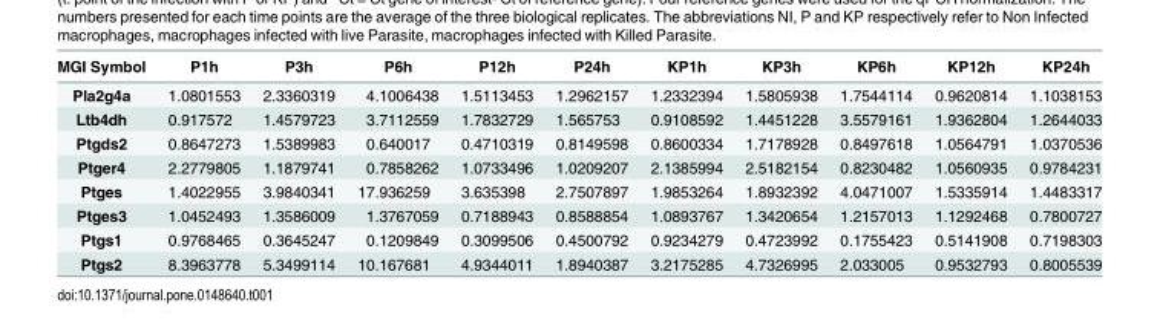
<table><thead><tr><td>MGI Symbol</td><td>P1h</td><td>P3h</td><td>P6h</td><td>P12h</td><td>P24h</td><td>KP1h</td><td>KP3h</td><td>KP6h</td><td>KP12h</td><td>KP24h</td></tr></thead><tbody><tr><td>Pla2g4a</td><td>1.0801553</td><td>2.3360319</td><td>4.1006438</td><td>1.5113453</td><td>1.2962157</td><td>1.2332394</td><td>1.5805938</td><td>1.7544114</td><td>0.9620814</td><td>1.1038153</td></tr><tr><td>Ltb4dh</td><td>0.917572</td><td>1.4579723</td><td>3.7112559</td><td>1.7832729</td><td>1.565753</td><td>0.9108592</td><td>1.4451228</td><td>3.5579161</td><td>1.9362804</td><td>1.2644033</td></tr><tr><td>Ptgds2</td><td>0.8647273</td><td>1.5389983</td><td>0.640017</td><td>0.4710319</td><td>0.8149598</td><td>0.8600334</td><td>1.7178928</td><td>0.8497618</td><td>1.0564791</td><td>1.0370536</td></tr><tr><td>Ptger4</td><td>2.2779805</td><td>1.1879741</td><td>0.7858262</td><td>1.0733496</td><td>1.0209207</td><td>2.1385994</td><td>2.5182154</td><td>0.8230482</td><td>1.0560935</td><td>0.9784231</td></tr><tr><td>Ptges</td><td>1.4022955</td><td>3.9840341</td><td>17.936259</td><td>3.635398</td><td>2.7507897</td><td>1.9853264</td><td>1.8932392</td><td>4.0471007</td><td>1.5335914</td><td>1.4483317</td></tr><tr><td>Ptges3</td><td>1.0452493</td><td>1.3586009</td><td>1.3767059</td><td>0.7188943</td><td>0.8588854</td><td>1.0893767</td><td>1.3420654</td><td>1.2157013</td><td>1.1292468</td><td>0.7800727</td></tr><tr><td>Ptgs1</td><td>0.9768465</td><td>0.3645247</td><td>0.1209849</td><td>0.3099506</td><td>0.4500792</td><td>0.9234279</td><td>0.4723992</td><td>0.1755423</td><td>0.5141908</td><td>0.7198303</td></tr><tr><td>Ptgs2</td><td>8.3963778</td><td>5.3499114</td><td>10.167681</td><td>4.9344011</td><td>1.8940387</td><td>3.2175285</td><td>4.7326995</td><td>2.033005</td><td>0.9532793</td><td>0.8005539</td></tr></tbody></table>